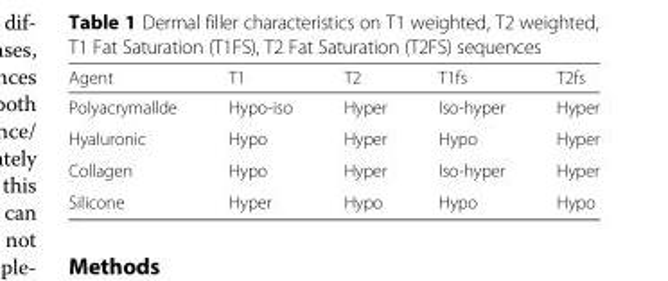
<table><thead><tr><td>Agent</td><td>T1</td><td>T2</td><td>T1fs</td><td>T2fs</td></tr></thead><tbody><tr><td>Polyacrymallde</td><td>Hypo-iso</td><td>Hyper</td><td>Iso-hyper</td><td>Hyper</td></tr><tr><td>Hyaluronic</td><td>Hypo</td><td>Hyper</td><td>Hypo</td><td>Hyper</td></tr><tr><td>Collagen</td><td>Hypo</td><td>Hyper</td><td>Iso-hyper</td><td>Hyper</td></tr><tr><td>Silicone</td><td>Hyper</td><td>Hypo</td><td>Hypo</td><td>Hypo</td></tr></tbody></table>